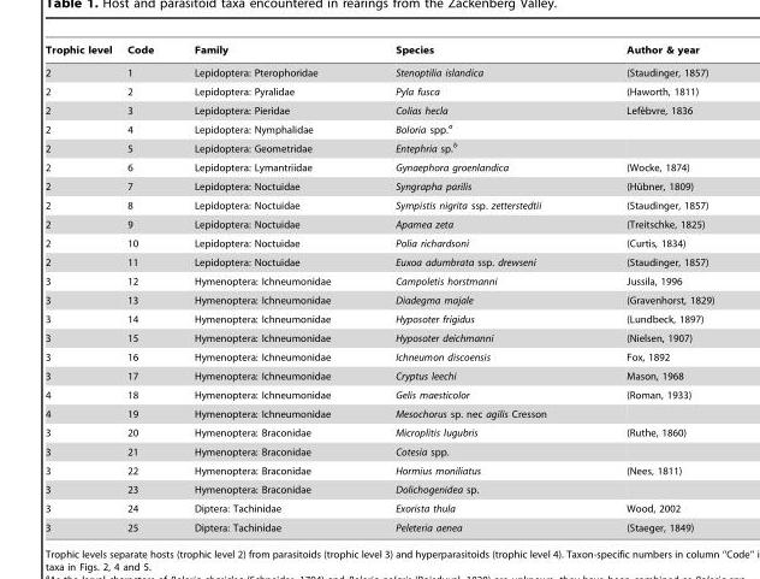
<table><thead><tr><td>Trophic level</td><td>Code</td><td>Family</td><td>Species</td><td>Author &amp; year</td></tr></thead><tbody><tr><td>2</td><td>1</td><td>Lepidoptera: Pterophoridae</td><td>Stenoptilia islandica</td><td>(Staudinger, 1857)</td></tr><tr><td>2</td><td>2</td><td>Lepidoptera: Pyralidae</td><td>Pyla fusca</td><td>(Haworth, 1811)</td></tr><tr><td>2</td><td>3</td><td>Lepidoptera: Pieridae</td><td>Colias hecla</td><td>Lefe`bvre, 1836</td></tr><tr><td>2</td><td>4</td><td>Lepidoptera: Nymphalidae</td><td>Boloria spp.<sup>a</sup></td><td></td></tr><tr><td>2</td><td>5</td><td>Lepidoptera: Geometridae</td><td>Entephria sp.<sup>b</sup></td><td></td></tr><tr><td>2</td><td>6</td><td>Lepidoptera: Lymantriidae</td><td>Gynaephora groenlandica</td><td>(Wocke, 1874)</td></tr><tr><td>2</td><td>7</td><td>Lepidoptera: Noctuidae</td><td>Syngrapha parilis</td><td>(Hu¨bner, 1809)</td></tr><tr><td>2</td><td>8</td><td>Lepidoptera: Noctuidae</td><td>Sympistis nigrita ssp. zetterstedtii</td><td>(Staudinger, 1857)</td></tr><tr><td>2</td><td>9</td><td>Lepidoptera: Noctuidae</td><td>Apamea zeta</td><td>(Treitschke, 1825)</td></tr><tr><td>2</td><td>10</td><td>Lepidoptera: Noctuidae</td><td>Polia richardsoni</td><td>(Curtis, 1834)</td></tr><tr><td>2</td><td>11</td><td>Lepidoptera: Noctuidae</td><td>Euxoa adumbrata ssp. drewseni</td><td>(Staudinger, 1857)</td></tr><tr><td>3</td><td>12</td><td>Hymenoptera: Ichneumonidae</td><td>Campoletis horstmanni</td><td>Jussila, 1996</td></tr><tr><td>3</td><td>13</td><td>Hymenoptera: Ichneumonidae</td><td>Diadegma majale</td><td>(Gravenhorst, 1829)</td></tr><tr><td>3</td><td>14</td><td>Hymenoptera: Ichneumonidae</td><td>Hyposoter frigidus</td><td>(Lundbeck, 1897)</td></tr><tr><td>3</td><td>15</td><td>Hymenoptera: Ichneumonidae</td><td>Hyposoter deichmanni</td><td>(Nielsen, 1907)</td></tr><tr><td>3</td><td>16</td><td>Hymenoptera: Ichneumonidae</td><td>Ichneumon discoensis</td><td>Fox, 1892</td></tr><tr><td>3</td><td>17</td><td>Hymenoptera: Ichneumonidae</td><td>Cryptus leechi</td><td>Mason, 1968</td></tr><tr><td>4</td><td>18</td><td>Hymenoptera: Ichneumonidae</td><td>Gelis maesticolor</td><td>(Roman, 1933)</td></tr><tr><td>4</td><td>19</td><td>Hymenoptera: Ichneumonidae</td><td>Mesochorus sp. nec agilis Cresson</td><td></td></tr><tr><td>3</td><td>20</td><td>Hymenoptera: Braconidae</td><td>Microplitis lugubris</td><td>(Ruthe, 1860)</td></tr><tr><td>3</td><td>21</td><td>Hymenoptera: Braconidae</td><td>Cotesia spp.</td><td></td></tr><tr><td>3</td><td>22</td><td>Hymenoptera: Braconidae</td><td>Hormius moniliatus</td><td>(Nees, 1811)</td></tr><tr><td>3</td><td>23</td><td>Hymenoptera: Braconidae</td><td>Dolichogenidea sp.</td><td></td></tr><tr><td>3</td><td>24</td><td>Diptera: Tachinidae</td><td>Exorista thula</td><td>Wood, 2002</td></tr><tr><td>3</td><td>25</td><td>Diptera: Tachinidae</td><td>Peleteria aenea</td><td>(Staeger, 1849)</td></tr></tbody></table>